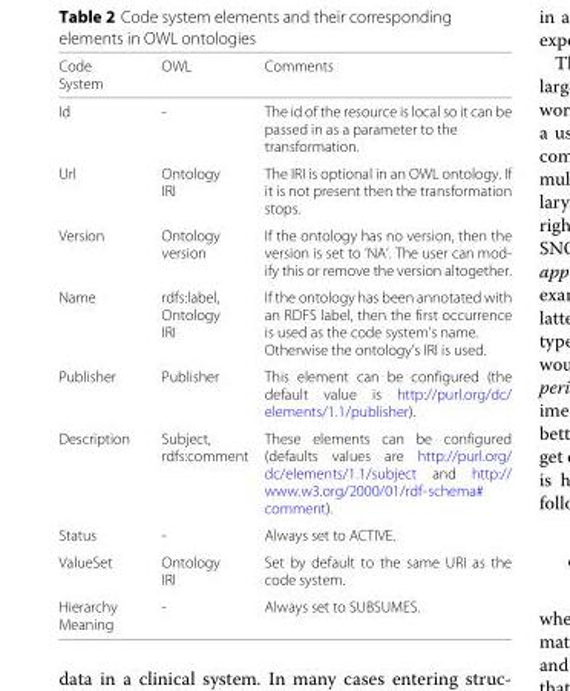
<table><thead><tr><td>Code System</td><td>OWL</td><td>Comments</td></tr></thead><tbody><tr><td>Id</td><td>-</td><td>The id of the resource is local so it can be passed in as a parameter to the transformation.</td></tr><tr><td>Url</td><td>Ontology IRI</td><td>The IRI is optional in an OWL ontology. If it is not present then the transformation stops.</td></tr><tr><td>Version</td><td>Ontology version</td><td>If the ontology has no version, then the version is set to ’NA’. The user can mod- ify this or remove the version altogether.</td></tr><tr><td>Name</td><td>rdfs:label, Ontology IRI</td><td>If the ontology has been annotated with an RDFS label, then the first occurrence is used as the code system’s name. Otherwise the ontology’s IRI is used.</td></tr><tr><td>Publisher</td><td>Publisher</td><td>This element can be configured (the default value is http://purl.org/dc/ elements/1.1/publisher).</td></tr><tr><td>Description</td><td>Subject, rdfs:comment</td><td>These elements can be configured (defaults values are http://purl.org/ dc/elements/1.1/subject and http:// www.w3.org/2000/01/rdf-schema# comment).</td></tr><tr><td>Status</td><td>-</td><td>Always set to ACTIVE.</td></tr><tr><td>ValueSet</td><td>Ontology IRI</td><td>Set by default to the same URI as the code system.</td></tr><tr><td>Hierarchy Meaning</td><td>-</td><td>Always set to SUBSUMES.</td></tr></tbody></table>